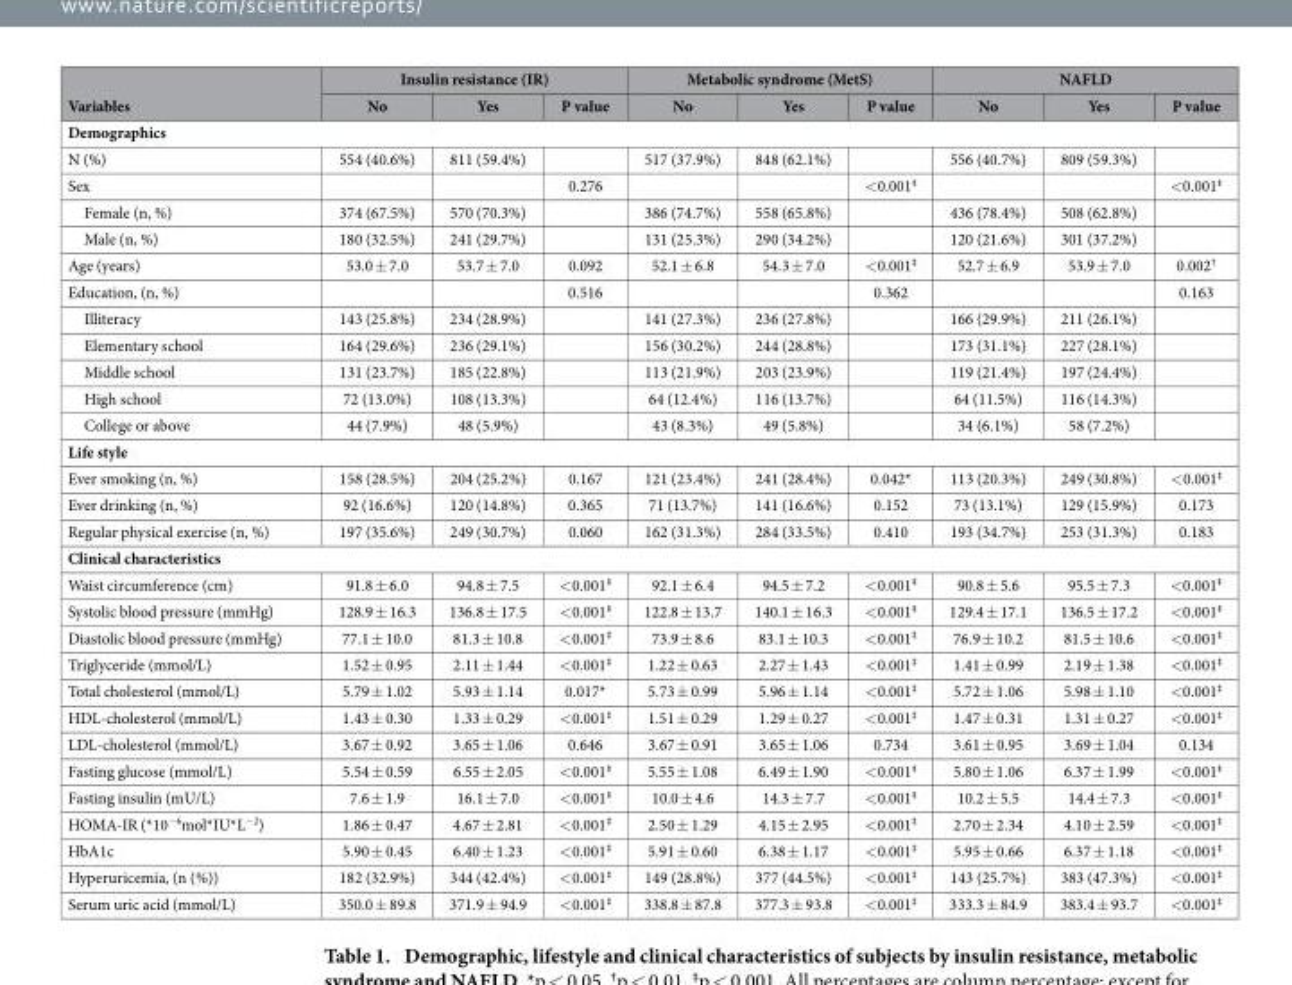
<table><thead><tr><td rowspan="2">Variables</td><td colspan="3">Insulin resistance (IR)</td><td colspan="3">Metabolic syndrome (MetS)</td><td colspan="3">NAFLD</td></tr><tr><td>No</td><td>Yes</td><td>P value</td><td>No</td><td>Yes</td><td>P value</td><td>No</td><td>Yes</td><td>P value</td></tr></thead><tbody><tr><td colspan="10">Demographics</td></tr><tr><td>N (%)</td><td>554 (40.6%)</td><td>811 (59.4%)</td><td></td><td>517 (37.9%)</td><td>848 (62.1%)</td><td></td><td>556 (40.7%)</td><td>809 (59.3%)</td><td></td></tr><tr><td>Sex</td><td></td><td></td><td>0.276</td><td></td><td></td><td>&lt; 0.001‡</td><td></td><td></td><td>&lt; 0.001‡</td></tr><tr><td>Female (n, %)</td><td>374 (67.5%)</td><td>570 (70.3%)</td><td></td><td>386 (74.7%)</td><td>558 (65.8%)</td><td></td><td>436 (78.4%)</td><td>508 (62.8%)</td><td></td></tr><tr><td>Male (n, %)</td><td>180 (32.5%)</td><td>241 (29.7%)</td><td></td><td>131 (25.3%)</td><td>290 (34.2%)</td><td></td><td>120 (21.6%)</td><td>301 (37.2%)</td><td></td></tr><tr><td>Age (years)</td><td>53.0 ± 7.0</td><td>53.7 ± 7.0</td><td>0.092</td><td>52.1 ± 6.8</td><td>54.3 ± 7.0</td><td>&lt; 0.001‡</td><td>52.7 ± 6.9</td><td>53.9 ± 7.0</td><td>0.002†</td></tr><tr><td>Education, (n, %)</td><td></td><td></td><td>0.516</td><td></td><td></td><td>0.362</td><td></td><td></td><td>0.163</td></tr><tr><td>Illiteracy</td><td>143 (25.8%)</td><td>234 (28.9%)</td><td></td><td>141 (27.3%)</td><td>236 (27.8%)</td><td></td><td>166 (29.9%)</td><td>211 (26.1%)</td><td></td></tr><tr><td>Elementary school</td><td>164 (29.6%)</td><td>236 (29.1%)</td><td></td><td>156 (30.2%)</td><td>244 (28.8%)</td><td></td><td>173 (31.1%)</td><td>227 (28.1%)</td><td></td></tr><tr><td>Middle school</td><td>131 (23.7%)</td><td>185 (22.8%)</td><td></td><td>113 (21.9%)</td><td>203 (23.9%)</td><td></td><td>119 (21.4%)</td><td>197 (24.4%)</td><td></td></tr><tr><td>High school</td><td>72 (13.0%)</td><td>108 (13.3%)</td><td></td><td>64 (12.4%)</td><td>116 (13.7%)</td><td></td><td>64 (11.5%)</td><td>116 (14.3%)</td><td></td></tr><tr><td>College or above</td><td>44 (7.9%)</td><td>48 (5.9%)</td><td></td><td>43 (8.3%)</td><td>49 (5.8%)</td><td></td><td>34 (6.1%)</td><td>58 (7.2%)</td><td></td></tr><tr><td colspan="10">Life style</td></tr><tr><td>Ever smoking (n, %)</td><td>158 (28.5%)</td><td>204 (25.2%)</td><td>0.167</td><td>121 (23.4%)</td><td>241 (28.4%)</td><td>0.042*</td><td>113 (20.3%)</td><td>249 (30.8%)</td><td>&lt; 0.001‡</td></tr><tr><td>Ever drinking (n, %)</td><td>92 (16.6%)</td><td>120 (14.8%)</td><td>0.365</td><td>71 (13.7%)</td><td>141 (16.6%)</td><td>0.152</td><td>73 (13.1%)</td><td>129 (15.9%)</td><td>0.173</td></tr><tr><td>Regular physical exercise (n, %)</td><td>197 (35.6%)</td><td>249 (30.7%)</td><td>0.060</td><td>162 (31.3%)</td><td>284 (33.5%)</td><td>0.410</td><td>193 (34.7%)</td><td>253 (31.3%)</td><td>0.183</td></tr><tr><td colspan="10">Clinical characteristics</td></tr><tr><td>Waist circumference (cm)</td><td>91.8 ± 6.0</td><td>94.8 ± 7.5</td><td>&lt; 0.001‡</td><td>92.1 ± 6.4</td><td>94.5 ± 7.2</td><td>&lt; 0.001‡</td><td>90.8 ± 5.6</td><td>95.5 ± 7.3</td><td>&lt; 0.001‡</td></tr><tr><td>Systolic blood pressure (mmHg)</td><td>128.9 ± 16.3</td><td>136.8 ± 17.5</td><td>&lt; 0.001‡</td><td>122.8 ± 13.7</td><td>140.1 ± 16.3</td><td>&lt; 0.001‡</td><td>129.4 ± 17.1</td><td>136.5 ± 17.2</td><td>&lt; 0.001‡</td></tr><tr><td>Diastolic blood pressure (mmHg)</td><td>77.1 ± 10.0</td><td>81.3 ± 10.8</td><td>&lt; 0.001‡</td><td>73.9 ± 8.6</td><td>83.1 ± 10.3</td><td>&lt; 0.001‡</td><td>76.9 ± 10.2</td><td>81.5 ± 10.6</td><td>&lt; 0.001‡</td></tr><tr><td>Triglyceride (mmol/L)</td><td>1.52 ± 0.95</td><td>2.11 ± 1.44</td><td>&lt; 0.001‡</td><td>1.22 ± 0.63</td><td>2.27 ± 1.43</td><td>&lt; 0.001‡</td><td>1.41 ± 0.99</td><td>2.19 ± 1.38</td><td>&lt; 0.001‡</td></tr><tr><td>Total cholesterol (mmol/L)</td><td>5.79 ± 1.02</td><td>5.93 ± 1.14</td><td>0.017*</td><td>5.73 ± 0.99</td><td>5.96 ± 1.14</td><td>&lt; 0.001‡</td><td>5.72 ± 1.06</td><td>5.98 ± 1.10</td><td>&lt; 0.001‡</td></tr><tr><td>HDL-cholesterol (mmol/L)</td><td>1.43 ± 0.30</td><td>1.33 ± 0.29</td><td>&lt; 0.001‡</td><td>1.51 ± 0.29</td><td>1.29 ± 0.27</td><td>&lt; 0.001‡</td><td>1.47 ± 0.31</td><td>1.31 ± 0.27</td><td>&lt; 0.001‡</td></tr><tr><td>LDL-cholesterol (mmol/L)</td><td>3.67 ± 0.92</td><td>3.65 ± 1.06</td><td>0.646</td><td>3.67 ± 0.91</td><td>3.65 ± 1.06</td><td>0.734</td><td>3.61 ± 0.95</td><td>3.69 ± 1.04</td><td>0.134</td></tr><tr><td>Fasting glucose (mmol/L)</td><td>5.54 ± 0.59</td><td>6.55 ± 2.05</td><td>&lt; 0.001‡</td><td>5.55 ± 1.08</td><td>6.49 ± 1.90</td><td>&lt; 0.001‡</td><td>5.80 ± 1.06</td><td>6.37 ± 1.99</td><td>&lt; 0.001‡</td></tr><tr><td>Fasting insulin (mU/L)</td><td>7.6 ± 1.9</td><td>16.1 ± 7.0</td><td>&lt; 0.001‡</td><td>10.0 ± 4.6</td><td>14.3 ± 7.7</td><td>&lt; 0.001‡</td><td>10.2 ± 5.5</td><td>14.4 ± 7.3</td><td>&lt; 0.001‡</td></tr><tr><td>HOMA-IR (*10<sup>−6</sup>mol*IU*L<sup>−2</sup>)</td><td>1.86 ± 0.47</td><td>4.67 ± 2.81</td><td>&lt; 0.001‡</td><td>2.50 ± 1.29</td><td>4.15 ± 2.95</td><td>&lt; 0.001‡</td><td>2.70 ± 2.34</td><td>4.10 ± 2.59</td><td>&lt; 0.001‡</td></tr><tr><td>HbA1c</td><td>5.90 ± 0.45</td><td>6.40 ± 1.23</td><td>&lt; 0.001‡</td><td>5.91 ± 0.60</td><td>6.38 ± 1.17</td><td>&lt; 0.001‡</td><td>5.95 ± 0.66</td><td>6.37 ± 1.18</td><td>&lt; 0.001‡</td></tr><tr><td>Hyperuricemia, (n (%))</td><td>182 (32.9%)</td><td>344 (42.4%)</td><td>&lt; 0.001‡</td><td>149 (28.8%)</td><td>377 (44.5%)</td><td>&lt; 0.001‡</td><td>143 (25.7%)</td><td>383 (47.3%)</td><td>&lt; 0.001‡</td></tr><tr><td>Serum uric acid (mmol/L)</td><td>350.0 ± 89.8</td><td>371.9 ± 94.9</td><td>&lt; 0.001‡</td><td>338.8 ± 87.8</td><td>377.3 ± 93.8</td><td>&lt; 0.001‡</td><td>333.3 ± 84.9</td><td>383.4 ± 93.7</td><td>&lt; 0.001‡</td></tr></tbody></table>